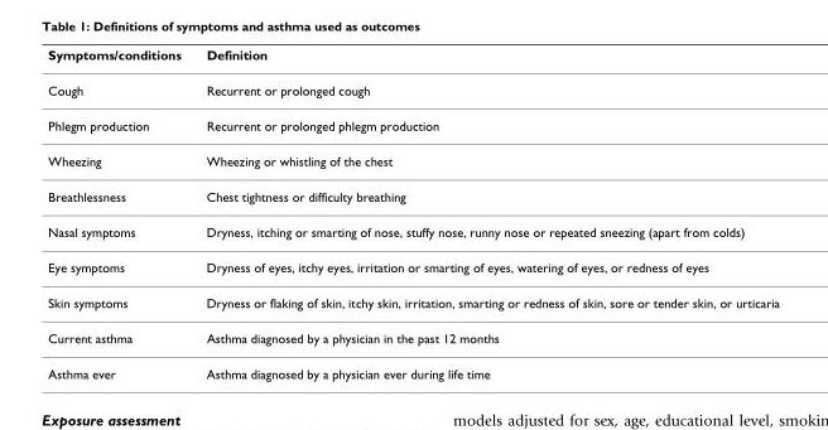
<table><thead><tr><td>Symptoms/conditions</td><td>Definition</td></tr></thead><tbody><tr><td>Cough</td><td>Recurrent or prolonged cough</td></tr><tr><td>Phlegm production</td><td>Recurrent or prolonged phlegm production</td></tr><tr><td>Wheezing</td><td>Wheezing or whistling of the chest</td></tr><tr><td>Breathlessness</td><td>Chest tightness or difficulty breathing</td></tr><tr><td>Nasal symptoms</td><td>Dryness, itching or smarting of nose, stuffy nose, runny nose or repeated sneezing (apart from colds)</td></tr><tr><td>Eye symptoms</td><td>Dryness of eyes, itchy eyes, irritation or smarting of eyes, watering of eyes, or redness of eyes</td></tr><tr><td>Skin symptoms</td><td>Dryness or flaking of skin, itchy skin, irritation, smarting or redness of skin, sore or tender skin, or urticaria</td></tr><tr><td>Current asthma</td><td>Asthma diagnosed by a physician in the past 12 months</td></tr><tr><td>Asthma ever</td><td>Asthma diagnosed by a physician ever during life time</td></tr></tbody></table>